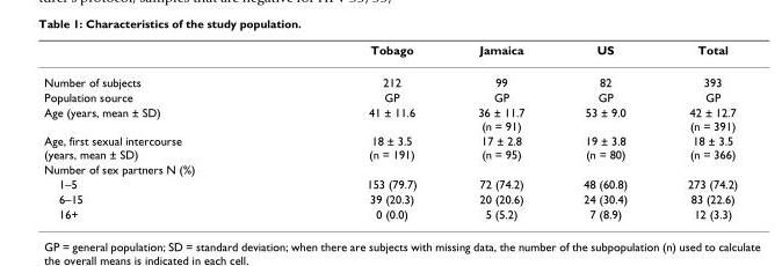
<table><thead><tr><td></td><td>Tobago</td><td>Jamaica</td><td>US</td><td>Total</td></tr></thead><tbody><tr><td>Number of subjects</td><td>212</td><td>99</td><td>82</td><td>393</td></tr><tr><td>Population source</td><td>GP</td><td>GP</td><td>GP</td><td>GP</td></tr><tr><td>Age (years, mean ± SD)</td><td>41 ± 11.6</td><td>36 ± 11.7 (n = 91)</td><td>53 ± 9.0</td><td>42 ± 12.7 (n = 391)</td></tr><tr><td>Age, first sexual intercourse (years, mean ± SD)</td><td>18 ± 3.5 (n = 191)</td><td>17 ± 2.8 (n = 95)</td><td>19 ± 3.8 (n = 80)</td><td>18 ± 3.5 (n = 366)</td></tr><tr><td colspan="5">Number of sex partners N (%)</td></tr><tr><td>1–5</td><td>153 (79.7)</td><td>72 (74.2)</td><td>48 (60.8)</td><td>273 (74.2)</td></tr><tr><td>6–15</td><td>39 (20.3)</td><td>20 (20.6)</td><td>24 (30.4)</td><td>83 (22.6)</td></tr><tr><td>16+</td><td>0 (0.0)</td><td>5 (5.2)</td><td>7 (8.9)</td><td>12 (3.3)</td></tr></tbody></table>